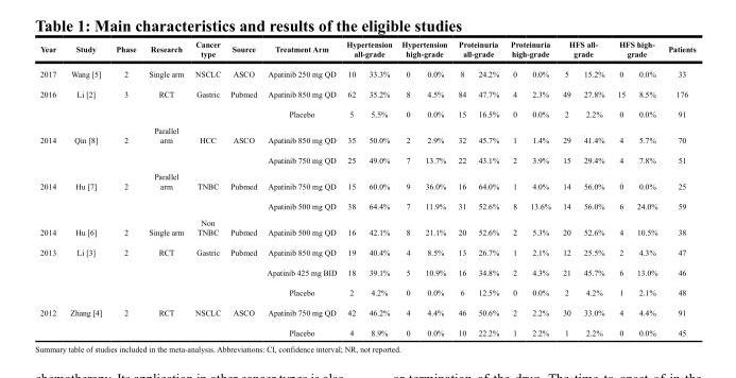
<table><thead><tr><td rowspan="2">Year 2017</td><td rowspan="2">Study Wang [5]</td><td rowspan="2">Phase 2</td><td rowspan="2">Research Single arm</td><td rowspan="2">Cancer type NSCLC</td><td rowspan="2">Source ASCO</td><td rowspan="2">Treatment Arm Apatinib 250 mg QD</td><td colspan="2">Hypertension all-grade</td><td colspan="2">Hypertension high-grade</td><td colspan="2">Proteinuria all-grade</td><td colspan="2">Proteinuria high-grade</td><td colspan="2">HFS all- grade</td><td colspan="2">HFS high- grade</td><td rowspan="2">Patients 33</td></tr><tr><td>10</td><td>33.3%</td><td>0</td><td>0.0%</td><td>8</td><td>24.2%</td><td>0</td><td>0.0%</td><td>5</td><td>15.2%</td><td>0</td><td>0.0%</td></tr></thead><tbody><tr><td rowspan="2">2016</td><td>Li [2]</td><td>3</td><td>RCT</td><td>Gastric</td><td>Pubmed</td><td>Apatinib 850 mg QD</td><td>62</td><td>35.2%</td><td>8</td><td>4.5%</td><td>84</td><td>47.7%</td><td>4</td><td>2.3%</td><td>49</td><td>27.8%</td><td>15</td><td>8.5%</td><td>176</td></tr><tr><td></td><td></td><td></td><td></td><td></td><td>Placebo</td><td>5</td><td>5.5%</td><td>0</td><td>0.0%</td><td>15</td><td>16.5%</td><td>0</td><td>0.0%</td><td>2</td><td>2.2%</td><td>0</td><td>0.0%</td><td>91</td></tr><tr><td rowspan="2">2014</td><td>Qin [8]</td><td>2</td><td>Parallel arm</td><td>HCC</td><td>ASCO</td><td>Apatinib 850 mg QD</td><td>35</td><td>50.0%</td><td>2</td><td>2.9%</td><td>32</td><td>45.7%</td><td>1</td><td>1.4%</td><td>29</td><td>41.4%</td><td>4</td><td>5.7%</td><td>70</td></tr><tr><td></td><td></td><td></td><td></td><td></td><td>Apatinib 750 mg QD</td><td>25</td><td>49.0%</td><td>7</td><td>13.7%</td><td>22</td><td>43.1%</td><td>2</td><td>3.9%</td><td>15</td><td>29.4%</td><td>4</td><td>7.8%</td><td>51</td></tr><tr><td rowspan="2">2014</td><td>Hu [7]</td><td>2</td><td>Parallel arm</td><td>TNBC</td><td>Pubmed</td><td>Apatinib 750 mg QD</td><td>15</td><td>60.0%</td><td>9</td><td>36.0%</td><td>16</td><td>64.0%</td><td>1</td><td>4.0%</td><td>14</td><td>56.0%</td><td>0</td><td>0.0%</td><td>25</td></tr><tr><td></td><td></td><td></td><td></td><td></td><td>Apatinib 500 mg QD</td><td>38</td><td>64.4%</td><td>7</td><td>11.9%</td><td>31</td><td>52.6%</td><td>8</td><td>13.6%</td><td>14</td><td>56.0%</td><td>6</td><td>24.0%</td><td>59</td></tr><tr><td>2014</td><td>Hu [6]</td><td>2</td><td>Single arm</td><td>Non TNBC</td><td>Pubmed</td><td>Apatinib 500 mg QD</td><td>16</td><td>42.1%</td><td>8</td><td>21.1%</td><td>20</td><td>52.6%</td><td>2</td><td>5.3%</td><td>20</td><td>52.6%</td><td>4</td><td>10.5%</td><td>38</td></tr><tr><td rowspan="3">2013</td><td>Li [3]</td><td>2</td><td>RCT</td><td>Gastric</td><td>Pubmed</td><td>Apatinib 850 mg QD</td><td>19</td><td>40.4%</td><td>4</td><td>8.5%</td><td>13</td><td>26.7%</td><td>1</td><td>2.1%</td><td>12</td><td>25.5%</td><td>2</td><td>4.3%</td><td>47</td></tr><tr><td></td><td></td><td></td><td></td><td></td><td>Apatinib 425 mg BID</td><td>18</td><td>39.1%</td><td>5</td><td>10.9%</td><td>16</td><td>34.8%</td><td>2</td><td>4.3%</td><td>21</td><td>45.7%</td><td>6</td><td>13.0%</td><td>46</td></tr><tr><td></td><td></td><td></td><td></td><td></td><td>Placebo</td><td>2</td><td>4.2%</td><td>0</td><td>0.0%</td><td>6</td><td>12.5%</td><td>0</td><td>0.0%</td><td>2</td><td>4.2%</td><td>1</td><td>2.1%</td><td>48</td></tr><tr><td rowspan="2">2012</td><td>Zhang [4]</td><td>2</td><td>RCT</td><td>NSCLC</td><td>ASCO</td><td>Apatinib 750 mg QD</td><td>42</td><td>46.2%</td><td>4</td><td>4.4%</td><td>46</td><td>50.6%</td><td>2</td><td>2.2%</td><td>30</td><td>33.0%</td><td>4</td><td>4.4%</td><td>91</td></tr><tr><td></td><td></td><td></td><td></td><td></td><td>Placebo</td><td>4</td><td>8.9%</td><td>0</td><td>0.0%</td><td>10</td><td>22.2%</td><td>1</td><td>2.2%</td><td>1</td><td>2.2%</td><td>0</td><td>0.0%</td><td>45</td></tr></tbody></table>